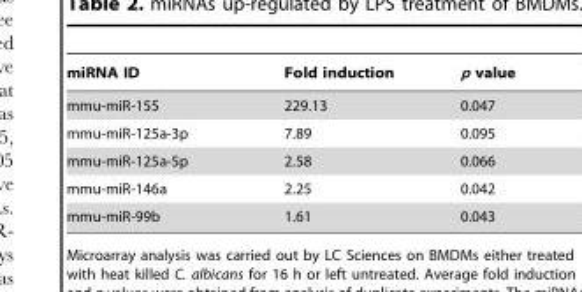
<table><thead><tr><td>miRNA ID</td><td>Fold induction</td><td>p value</td></tr></thead><tbody><tr><td>mmu-miR-155</td><td>229.13</td><td>0.047</td></tr><tr><td>mmu-miR-125a-3p</td><td>7.89</td><td>0.095</td></tr><tr><td>mmu-miR-125a-5p</td><td>2.58</td><td>0.066</td></tr><tr><td>mmu-miR-146a</td><td>2.25</td><td>0.042</td></tr><tr><td>mmu-miR-99b</td><td>1.61</td><td>0.043</td></tr></tbody></table>